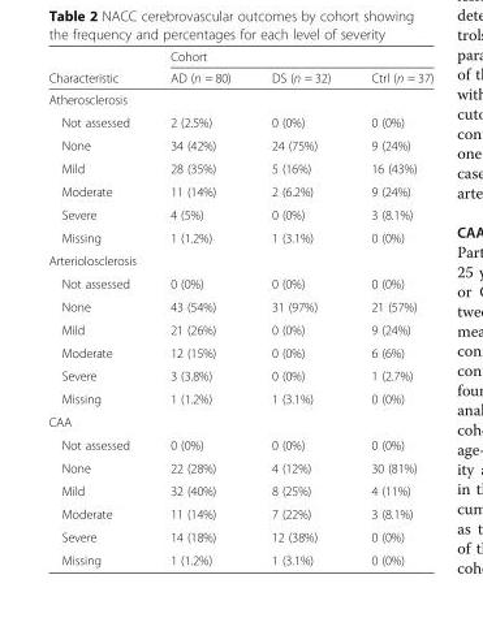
<table><thead><tr><td rowspan="2">Characteristic</td><td colspan="3">Cohort</td></tr><tr><td>AD (n = 80)</td><td>DS (n = 32)</td><td>Ctrl (n = 37)</td></tr></thead><tbody><tr><td colspan="4">Atherosclerosis</td></tr><tr><td>Not assessed</td><td>2 (2.5%)</td><td>0 (0%)</td><td>0 (0%)</td></tr><tr><td>None</td><td>34 (42%)</td><td>24 (75%)</td><td>9 (24%)</td></tr><tr><td>Mild</td><td>28 (35%)</td><td>5 (16%)</td><td>16 (43%)</td></tr><tr><td>Moderate</td><td>11 (14%)</td><td>2 (6.2%)</td><td>9 (24%)</td></tr><tr><td>Severe</td><td>4 (5%)</td><td>0 (0%)</td><td>3 (8.1%)</td></tr><tr><td>Missing</td><td>1 (1.2%)</td><td>1 (3.1%)</td><td>0 (0%)</td></tr><tr><td colspan="4">Arteriolosclerosis</td></tr><tr><td>Not assessed</td><td>0 (0%)</td><td>0 (0%)</td><td>0 (0%)</td></tr><tr><td>None</td><td>43 (54%)</td><td>31 (97%)</td><td>21 (57%)</td></tr><tr><td>Mild</td><td>21 (26%)</td><td>0 (0%)</td><td>9 (24%)</td></tr><tr><td>Moderate</td><td>12 (15%)</td><td>0 (0%)</td><td>6 (6%)</td></tr><tr><td>Severe</td><td>3 (3.8%)</td><td>0 (0%)</td><td>1 (2.7%)</td></tr><tr><td>Missing</td><td>1 (1.2%)</td><td>1 (3.1%)</td><td>0 (0%)</td></tr><tr><td colspan="4">CAA</td></tr><tr><td>Not assessed</td><td>0 (0%)</td><td>0 (0%)</td><td>0 (0%)</td></tr><tr><td>None</td><td>22 (28%)</td><td>4 (12%)</td><td>30 (81%)</td></tr><tr><td>Mild</td><td>32 (40%)</td><td>8 (25%)</td><td>4 (11%)</td></tr><tr><td>Moderate</td><td>11 (14%)</td><td>7 (22%)</td><td>3 (8.1%)</td></tr><tr><td>Severe</td><td>14 (18%)</td><td>12 (38%)</td><td>0 (0%)</td></tr><tr><td>Missing</td><td>1 (1.2%)</td><td>1 (3.1%)</td><td>0 (0%)</td></tr></tbody></table>